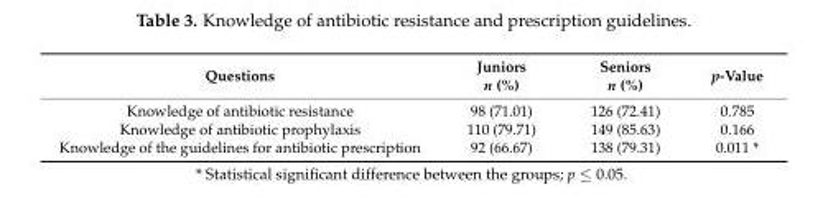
<table><thead><tr><td>Questions</td><td>Juniors n (%)</td><td>Seniors n (%)</td><td>p-Value</td></tr></thead><tbody><tr><td>Knowledge of antibiotic resistance</td><td>98 (71.01)</td><td>126 (72.41)</td><td>0.785</td></tr><tr><td>Knowledge of antibiotic prophylaxis</td><td>110 (79.71)</td><td>149 (85.63)</td><td>0.166</td></tr><tr><td>Knowledge of the guidelines for antibiotic prescription</td><td>92 (66.67)</td><td>138 (79.31)</td><td>0.011 *</td></tr></tbody></table>